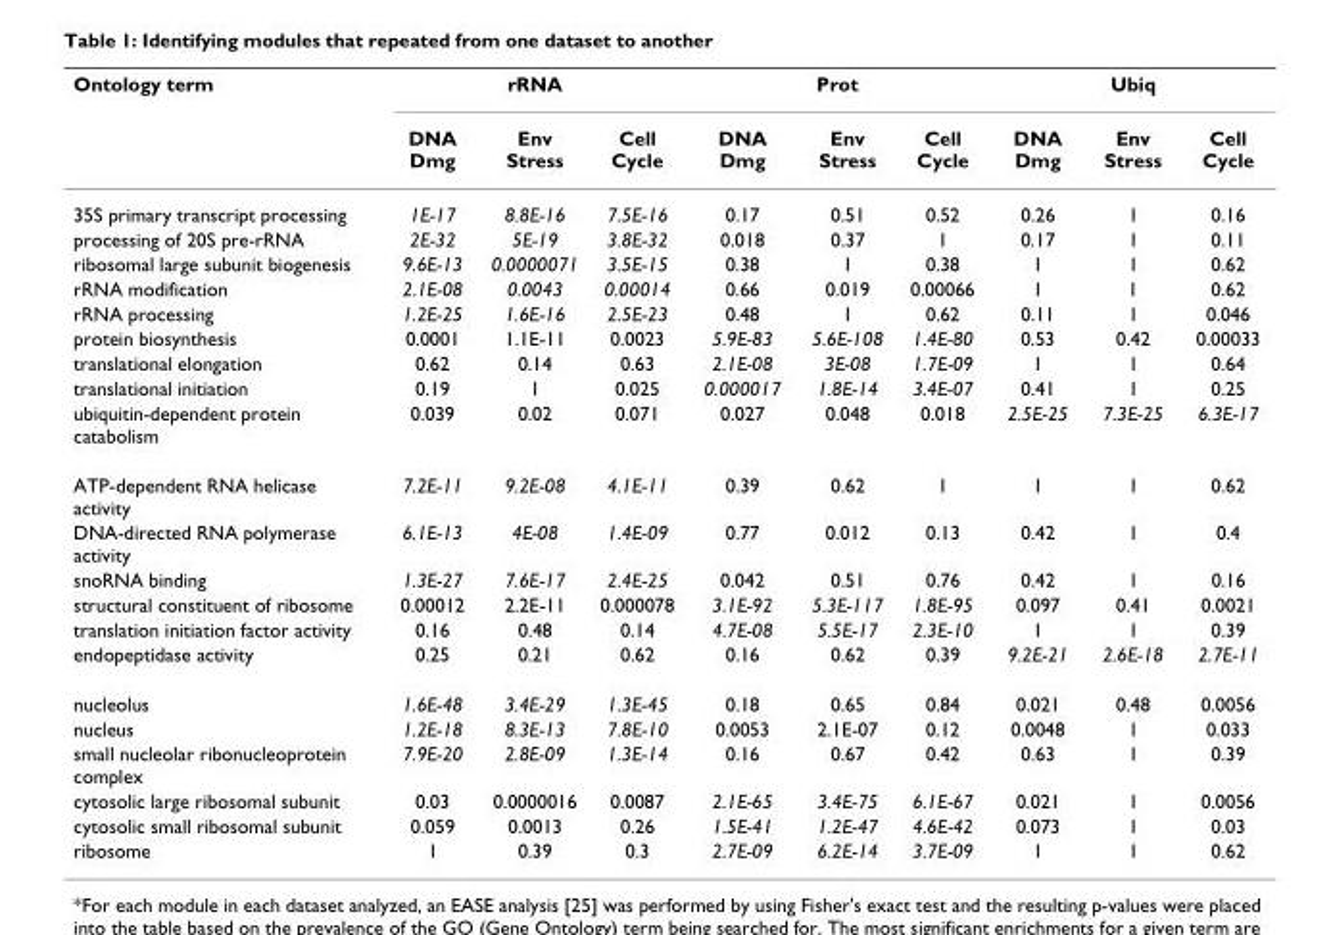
<table><thead><tr><td rowspan="2">Ontology term</td><td colspan="3">rRNA</td><td colspan="3">Prot</td><td colspan="3">Ubiq</td></tr><tr><td>DNA Dmg</td><td>Env Stress</td><td>Cell Cycle</td><td>DNA Dmg</td><td>Env Stress</td><td>Cell Cycle</td><td>DNA Dmg</td><td>Env Stress</td><td>Cell Cycle</td></tr></thead><tbody><tr><td>35S primary transcript processing</td><td>1E-17</td><td>8.8E-16</td><td>7.5E-16</td><td>0.17</td><td>0.51</td><td>0.52</td><td>0.26</td><td>1</td><td>0.16</td></tr><tr><td>processing of 20S pre-rRNA</td><td>2E-32</td><td>5E-19</td><td>3.8E-32</td><td>0.018</td><td>0.37</td><td>1</td><td>0.17</td><td>1</td><td>0.11</td></tr><tr><td>ribosomal large subunit biogenesis</td><td>9.6E-13</td><td>0.0000071</td><td>3.5E-15</td><td>0.38</td><td>1</td><td>0.38</td><td>1</td><td>1</td><td>0.62</td></tr><tr><td>rRNA modification</td><td>2.1E-08</td><td>0.0043</td><td>0.00014</td><td>0.66</td><td>0.019</td><td>0.00066</td><td>1</td><td>1</td><td>0.62</td></tr><tr><td>rRNA processing</td><td>1.2E-25</td><td>1.6E-16</td><td>2.5E-23</td><td>0.48</td><td>1</td><td>0.62</td><td>0.11</td><td>1</td><td>0.046</td></tr><tr><td>protein biosynthesis</td><td>0.0001</td><td>1.1E-11</td><td>0.0023</td><td>5.9E-83</td><td>5.6E-108</td><td>1.4E-80</td><td>0.53</td><td>0.42</td><td>0.00033</td></tr><tr><td>translational elongation</td><td>0.62</td><td>0.14</td><td>0.63</td><td>2.1E-08</td><td>3E-08</td><td>1.7E-09</td><td>1</td><td>1</td><td>0.64</td></tr><tr><td>translational initiation</td><td>0.19</td><td>1</td><td>0.025</td><td>0.000017</td><td>1.8E-14</td><td>3.4E-07</td><td>0.41</td><td>1</td><td>0.25</td></tr><tr><td>ubiquitin-dependent protein catabolism</td><td>0.039</td><td>0.02</td><td>0.071</td><td>0.027</td><td>0.048</td><td>0.018</td><td>2.5E-25</td><td>7.3E-25</td><td>6.3E-17</td></tr><tr><td>ATP-dependent RNA helicase activity</td><td>7.2E-11</td><td>9.2E-08</td><td>4.1E-11</td><td>0.39</td><td>0.62</td><td>1</td><td>1</td><td>1</td><td>0.62</td></tr><tr><td>DNA-directed RNA polymerase activity</td><td>6.1E-13</td><td>4E-08</td><td>1.4E-09</td><td>0.77</td><td>0.012</td><td>0.13</td><td>0.42</td><td>1</td><td>0.4</td></tr><tr><td>snoRNA binding</td><td>1.3E-27</td><td>7.6E-17</td><td>2.4E-25</td><td>0.042</td><td>0.51</td><td>0.76</td><td>0.42</td><td>1</td><td>0.16</td></tr><tr><td>structural constituent of ribosome</td><td>0.00012</td><td>2.2E-11</td><td>0.000078</td><td>3.1E-92</td><td>5.3E-117</td><td>1.8E-95</td><td>0.097</td><td>0.41</td><td>0.0021</td></tr><tr><td>translation initiation factor activity</td><td>0.16</td><td>0.48</td><td>0.14</td><td>4.7E-08</td><td>5.5E-17</td><td>2.3E-10</td><td>1</td><td>1</td><td>0.39</td></tr><tr><td>endopeptidase activity</td><td>0.25</td><td>0.21</td><td>0.62</td><td>0.16</td><td>0.62</td><td>0.39</td><td>9.2E-21</td><td>2.6E-18</td><td>2.7E-11</td></tr><tr><td>nucleolus</td><td>1.6E-48</td><td>3.4E-29</td><td>1.3E-45</td><td>0.18</td><td>0.65</td><td>0.84</td><td>0.021</td><td>0.48</td><td>0.0056</td></tr><tr><td>nucleus</td><td>1.2E-18</td><td>8.3E-13</td><td>7.8E-10</td><td>0.0053</td><td>2.1E-07</td><td>0.12</td><td>0.0048</td><td>1</td><td>0.033</td></tr><tr><td>small nucleolar ribonucleoprotein complex</td><td>7.9E-20</td><td>2.8E-09</td><td>1.3E-14</td><td>0.16</td><td>0.67</td><td>0.42</td><td>0.63</td><td>1</td><td>0.39</td></tr><tr><td>cytosolic large ribosomal subunit</td><td>0.03</td><td>0.0000016</td><td>0.0087</td><td>2.1E-65</td><td>3.4E-75</td><td>6.1E-67</td><td>0.021</td><td>1</td><td>0.0056</td></tr><tr><td>cytosolic small ribosomal subunit</td><td>0.059</td><td>0.0013</td><td>0.26</td><td>1.5E-41</td><td>1.2E-47</td><td>4.6E-42</td><td>0.073</td><td>1</td><td>0.03</td></tr><tr><td>ribosome</td><td>1</td><td>0.39</td><td>0.3</td><td>2.7E-09</td><td>6.2E-14</td><td>3.7E-09</td><td>1</td><td>1</td><td>0.62</td></tr></tbody></table>